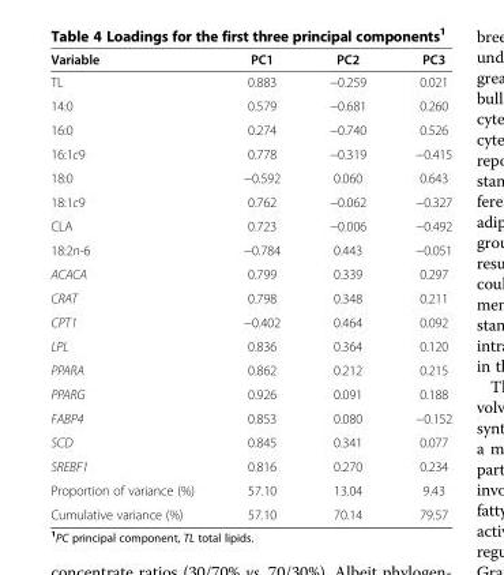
<table><thead><tr><td>Variable</td><td>PC1</td><td>PC2</td><td>PC3</td></tr></thead><tbody><tr><td>TL</td><td>0.883</td><td>−0.259</td><td>0.021</td></tr><tr><td>14:0</td><td>0.579</td><td>−0.681</td><td>0.260</td></tr><tr><td>16:0</td><td>0.274</td><td>−0.740</td><td>0.526</td></tr><tr><td>16:1c9</td><td>0.778</td><td>−0.319</td><td>−0.415</td></tr><tr><td>18:0</td><td>−0.592</td><td>0.060</td><td>0.643</td></tr><tr><td>18:1c9</td><td>0.762</td><td>−0.062</td><td>−0.327</td></tr><tr><td>CLA</td><td>0.723</td><td>−0.006</td><td>−0.492</td></tr><tr><td>18:2n-6</td><td>−0.784</td><td>0.443</td><td>−0.051</td></tr><tr><td>ACACA</td><td>0.799</td><td>0.339</td><td>0.297</td></tr><tr><td>CRAT</td><td>0.798</td><td>0.348</td><td>0.211</td></tr><tr><td>CPT1</td><td>−0.402</td><td>0.464</td><td>0.092</td></tr><tr><td>LPL</td><td>0.836</td><td>0.364</td><td>0.120</td></tr><tr><td>PPARA</td><td>0.862</td><td>0.212</td><td>0.215</td></tr><tr><td>PPARG</td><td>0.926</td><td>0.091</td><td>0.188</td></tr><tr><td>FABP4</td><td>0.853</td><td>0.080</td><td>−0.152</td></tr><tr><td>SCD</td><td>0.845</td><td>0.341</td><td>0.077</td></tr><tr><td>SREBF1</td><td>0.816</td><td>0.270</td><td>0.234</td></tr><tr><td>Proportion of variance (%)</td><td>57.10</td><td>13.04</td><td>9.43</td></tr><tr><td>Cumulative variance (%)</td><td>57.10</td><td>70.14</td><td>79.57</td></tr></tbody></table>